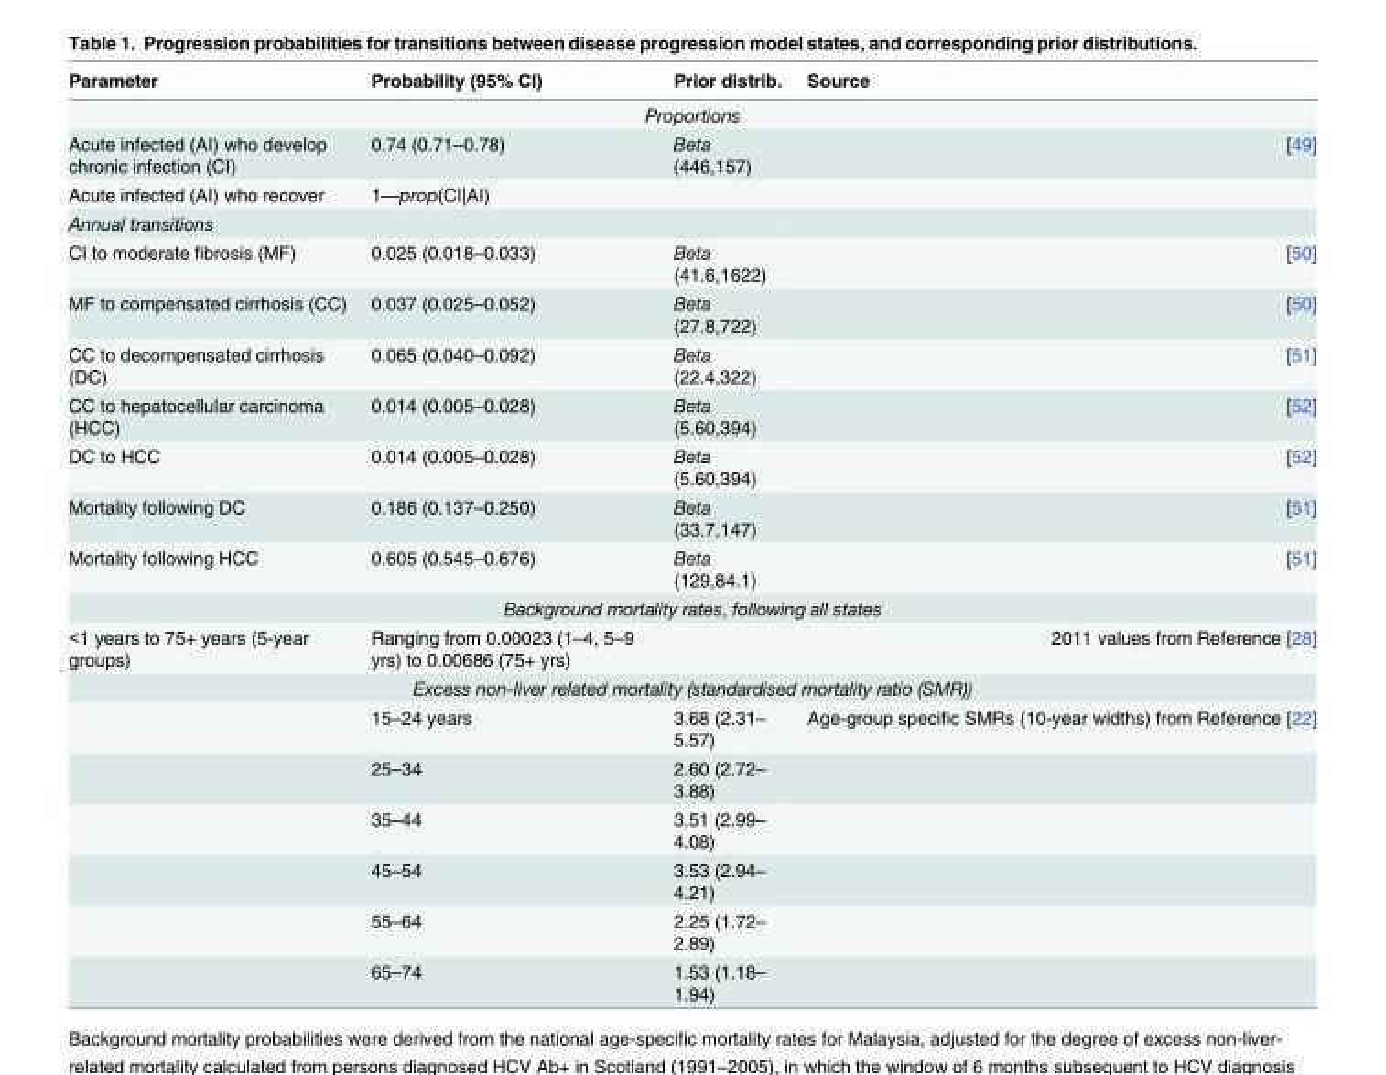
<table><thead><tr><td>Parameter</td><td>Probability (95% CI)</td><td>Prior distrib.</td><td>Source</td></tr></thead><tbody><tr><td colspan="4">Proportions</td></tr><tr><td>Acute infected (AI) who develop chronic infection (CI)</td><td>0.74 (0.71–0.78)</td><td>Beta (446,157)</td><td>[49]</td></tr><tr><td>Acute infected (AI) who recover</td><td>1—prop(CI|AI)</td><td></td><td></td></tr><tr><td colspan="4">Annual transitions</td></tr><tr><td>CI to moderate fibrosis (MF)</td><td>0.025 (0.018–0.033)</td><td>Beta (41.6,1622)</td><td>[50]</td></tr><tr><td>MF to compensated cirrhosis (CC)</td><td>0.037 (0.025–0.052)</td><td>Beta (27.8,722)</td><td>[50]</td></tr><tr><td>CC to decompensated cirrhosis (DC)</td><td>0.065 (0.040–0.092)</td><td>Beta (22.4,322)</td><td>[51]</td></tr><tr><td>CC to hepatocellular carcinoma (HCC)</td><td>0.014 (0.005–0.028)</td><td>Beta (5.60,394)</td><td>[52]</td></tr><tr><td>DC to HCC</td><td>0.014 (0.005–0.028)</td><td>Beta (5.60,394)</td><td>[52]</td></tr><tr><td>Mortality following DC</td><td>0.186 (0.137–0.250)</td><td>Beta (33.7,147)</td><td>[51]</td></tr><tr><td>Mortality following HCC</td><td>0.605 (0.545–0.676)</td><td>Beta (129,84.1)</td><td>[51]</td></tr><tr><td colspan="4">Background mortality rates, following all states</td></tr><tr><td>&lt;1 years to 75+ years (5-year groups)</td><td>Ranging from 0.00023 (1–4, 5–9 yrs) to 0.00686 (75+ yrs)</td><td></td><td>2011 values from Reference [28]</td></tr><tr><td colspan="4">Excess non-liver related mortality (standardised mortality ratio (SMR))</td></tr><tr><td></td><td>15–24 years</td><td>3.68 (2.31– 5.57)</td><td>Age-group specific SMRs (10-year widths) from Reference [22]</td></tr><tr><td></td><td>25–34</td><td>2.60 (2.72– 3.88)</td><td></td></tr><tr><td></td><td>35–44</td><td>3.51 (2.99– 4.08)</td><td></td></tr><tr><td></td><td>45–54</td><td>3.53 (2.94– 4.21)</td><td></td></tr><tr><td></td><td>55–64</td><td>2.25 (1.72– 2.89)</td><td></td></tr><tr><td></td><td>65–74</td><td>1.53 (1.18– 1.94)</td><td></td></tr></tbody></table>